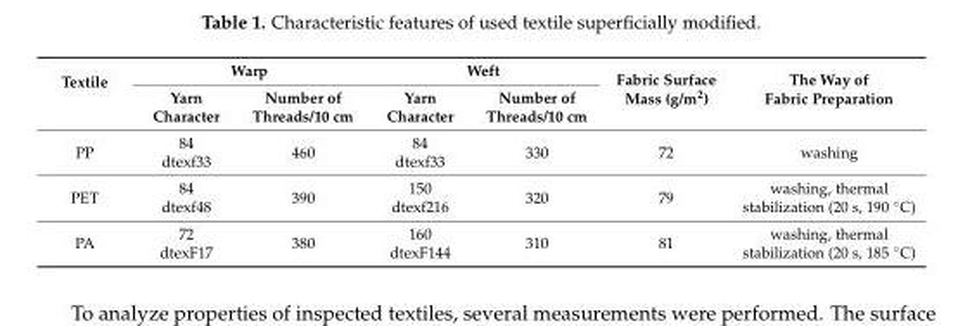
<table><thead><tr><td rowspan="2">Textile</td><td colspan="2">Warp</td><td colspan="2">Weft</td><td rowspan="2">Fabric Surface Mass (g/m<sup>2</sup>)</td><td rowspan="2">The Way of Fabric Preparation</td></tr><tr><td>Yarn Character</td><td>Number of Threads/10 cm</td><td>Yarn Character</td><td>Number of Threads/10 cm</td></tr></thead><tbody><tr><td>PP</td><td>84 dtexf33</td><td>460</td><td>84 dtexf33</td><td>330</td><td>72</td><td>washing</td></tr><tr><td>PET</td><td>84 dtexf48</td><td>390</td><td>150 dtexf216</td><td>320</td><td>79</td><td>washing, thermal stabilization (20 s, 190 ◦C)</td></tr><tr><td>PA</td><td>72 dtexF17</td><td>380</td><td>160 dtexF144</td><td>310</td><td>81</td><td>washing, thermal stabilization (20 s, 185 ◦C)</td></tr></tbody></table>